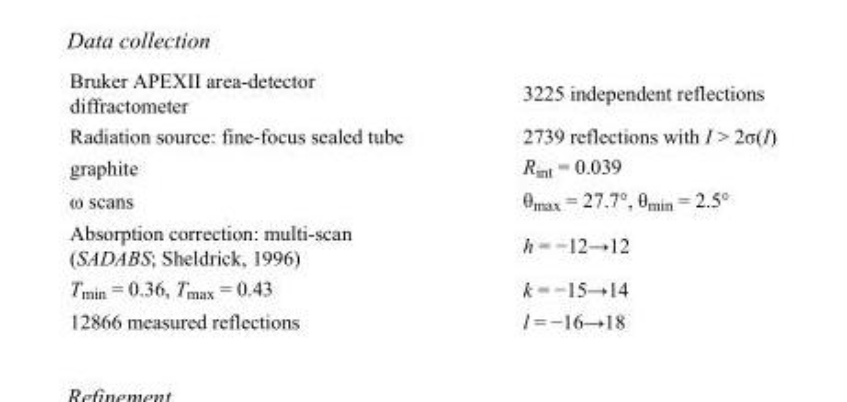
<table><tbody><tr><td>Bruker APEXII area-detector diffractometer</td><td>3225 independent reflections</td></tr><tr><td>Radiation source: fine-focus sealed tube</td><td>2739 reflections with I &gt; 2σ(I)</td></tr><tr><td>graphite</td><td>R<sub>int</sub> = 0.039</td></tr><tr><td>ω scans</td><td>θ<sub>max</sub> = 27.7°, θ<sub>min</sub> = 2.5°</td></tr><tr><td>Absorption correction: multi-scan (SADABS; Sheldrick, 1996)</td><td>h = −12→12</td></tr><tr><td>T<sub>min</sub> = 0.36, T<sub>max</sub> = 0.43</td><td>k = −15→14</td></tr><tr><td>12866 measured reflections</td><td>l = −16→18</td></tr></tbody></table>